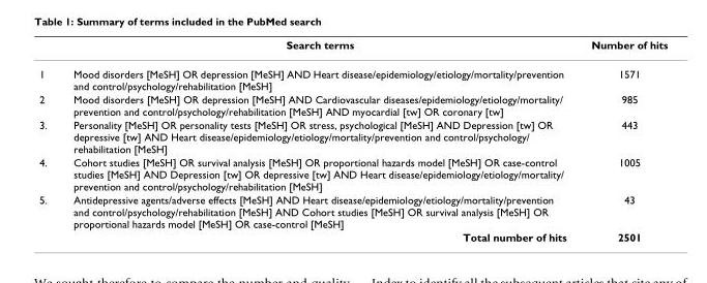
<table><thead><tr><td></td><td>Search terms</td><td>Number of hits</td></tr></thead><tbody><tr><td>1</td><td>Mood disorders [MeSH] OR depression [MeSH] AND Heart disease/epidemiology/etiology/mortality/prevention and control/psychology/rehabilitation [MeSH]</td><td>1571</td></tr><tr><td>2</td><td>Mood disorders [MeSH] OR depression [MeSH] AND Cardiovascular diseases/epidemiology/etiology/mortality/ prevention and control/psychology/rehabilitation [MeSH] AND myocardial [tw] OR coronary [tw]</td><td>985</td></tr><tr><td>3.</td><td>Personality [MeSH] OR personality tests [MeSH] OR stress, psychological [MeSH] AND Depression [tw] OR depressive [tw] AND Heart disease/epidemiology/etiology/mortality/prevention and control/psychology/ rehabilitation [MeSH]</td><td>443</td></tr><tr><td>4.</td><td>Cohort studies [MeSH] OR survival analysis [MeSH] OR proportional hazards model [MeSH] OR case-control studies [MeSH] AND Depression [tw] OR depressive [tw] AND Heart disease/epidemiology/etiology/mortality/ prevention and control/psychology/rehabilitation [MeSH]</td><td>1005</td></tr><tr><td>5.</td><td>Antidepressive agents/adverse effects [MeSH] AND Heart disease/epidemiology/etiology/mortality/prevention and control/psychology/rehabilitation [MeSH] AND Cohort studies [MeSH] OR survival analysis [MeSH] OR proportional hazards model [MeSH] OR case-control [MeSH]</td><td>43</td></tr><tr><td colspan="2">Total number of hits</td><td>2501</td></tr></tbody></table>